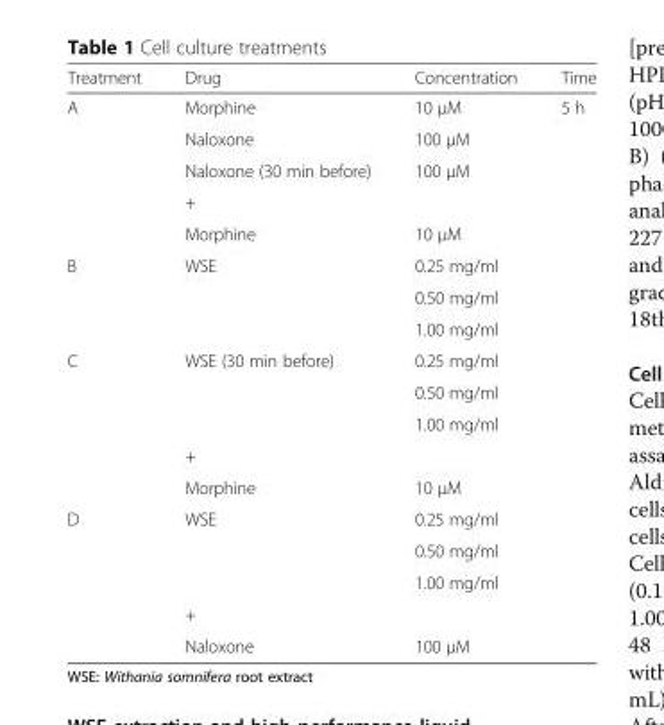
<table><thead><tr><td>Treatment</td><td>Drug</td><td>Concentration</td><td>Time</td></tr></thead><tbody><tr><td rowspan="5">A</td><td>Morphine</td><td>10 μM</td><td rowspan="18">5 h</td></tr><tr><td>Naloxone</td><td>100 μM</td></tr><tr><td>Naloxone (30 min before)</td><td>100 μM</td></tr><tr><td>+</td><td></td></tr><tr><td>Morphine</td><td>10 μM</td></tr><tr><td rowspan="3">B</td><td rowspan="3">WSE</td><td>0.25 mg/ml</td></tr><tr><td>0.50 mg/ml</td></tr><tr><td>1.00 mg/ml</td></tr><tr><td rowspan="5">C</td><td rowspan="3">WSE (30 min before)</td><td>0.25 mg/ml</td></tr><tr><td>0.50 mg/ml</td></tr><tr><td>1.00 mg/ml</td></tr><tr><td>+</td><td></td></tr><tr><td>Morphine</td><td>10 μM</td></tr><tr><td rowspan="5">D</td><td rowspan="3">WSE</td><td>0.25 mg/ml</td></tr><tr><td>0.50 mg/ml</td></tr><tr><td>1.00 mg/ml</td></tr><tr><td>+</td><td></td></tr><tr><td>Naloxone</td><td>100 μM</td></tr></tbody></table>